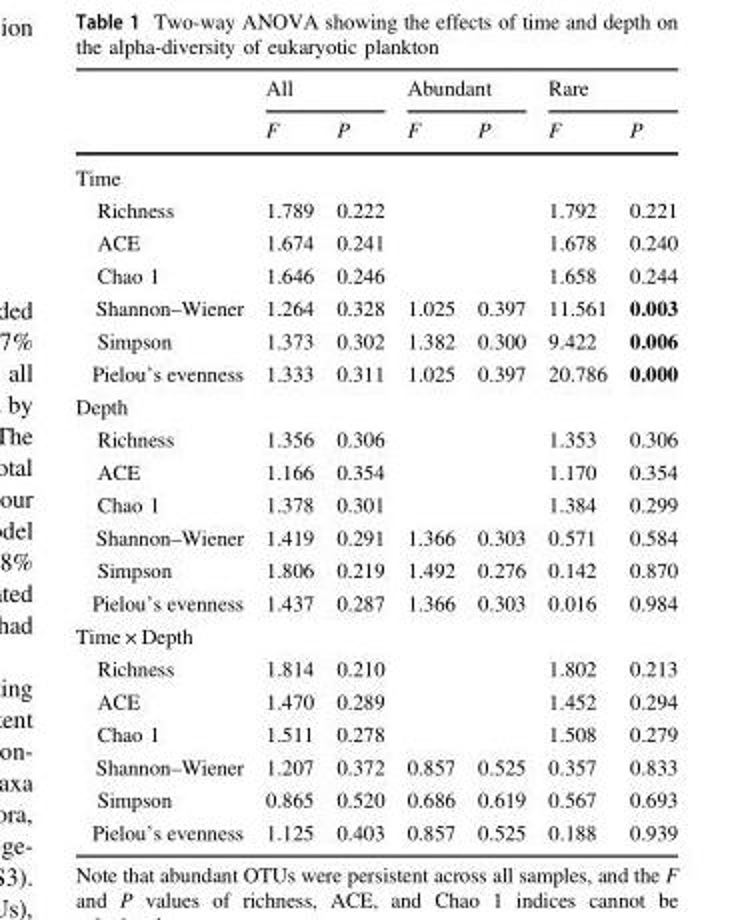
<table><thead><tr><td rowspan="2"></td><td colspan="2">All</td><td colspan="2">Abundant</td><td colspan="2">Rare</td></tr><tr><td>F</td><td>P</td><td>F</td><td>P</td><td>F</td><td>P</td></tr></thead><tbody><tr><td colspan="7">Time</td></tr><tr><td>Richness</td><td>1.789</td><td>0.222</td><td></td><td></td><td>1.792</td><td>0.221</td></tr><tr><td>ACE</td><td>1.674</td><td>0.241</td><td></td><td></td><td>1.678</td><td>0.240</td></tr><tr><td>Chao 1</td><td>1.646</td><td>0.246</td><td></td><td></td><td>1.658</td><td>0.244</td></tr><tr><td>Shannon–Wiener</td><td>1.264</td><td>0.328</td><td>1.025</td><td>0.397</td><td>11.561</td><td>0.003</td></tr><tr><td>Simpson</td><td>1.373</td><td>0.302</td><td>1.382</td><td>0.300</td><td>9.422</td><td>0.006</td></tr><tr><td>Pielou’s evenness</td><td>1.333</td><td>0.311</td><td>1.025</td><td>0.397</td><td>20.786</td><td>0.000</td></tr><tr><td colspan="7">Depth</td></tr><tr><td>Richness</td><td>1.356</td><td>0.306</td><td></td><td></td><td>1.353</td><td>0.306</td></tr><tr><td>ACE</td><td>1.166</td><td>0.354</td><td></td><td></td><td>1.170</td><td>0.354</td></tr><tr><td>Chao 1</td><td>1.378</td><td>0.301</td><td></td><td></td><td>1.384</td><td>0.299</td></tr><tr><td>Shannon–Wiener</td><td>1.419</td><td>0.291</td><td>1.366</td><td>0.303</td><td>0.571</td><td>0.584</td></tr><tr><td>Simpson</td><td>1.806</td><td>0.219</td><td>1.492</td><td>0.276</td><td>0.142</td><td>0.870</td></tr><tr><td>Pielou’s evenness</td><td>1.437</td><td>0.287</td><td>1.366</td><td>0.303</td><td>0.016</td><td>0.984</td></tr><tr><td colspan="7">Time × Depth</td></tr><tr><td>Richness</td><td>1.814</td><td>0.210</td><td></td><td></td><td>1.802</td><td>0.213</td></tr><tr><td>ACE</td><td>1.470</td><td>0.289</td><td></td><td></td><td>1.452</td><td>0.294</td></tr><tr><td>Chao 1</td><td>1.511</td><td>0.278</td><td></td><td></td><td>1.508</td><td>0.279</td></tr><tr><td>Shannon–Wiener</td><td>1.207</td><td>0.372</td><td>0.857</td><td>0.525</td><td>0.357</td><td>0.833</td></tr><tr><td>Simpson</td><td>0.865</td><td>0.520</td><td>0.686</td><td>0.619</td><td>0.567</td><td>0.693</td></tr><tr><td>Pielou’s evenness</td><td>1.125</td><td>0.403</td><td>0.857</td><td>0.525</td><td>0.188</td><td>0.939</td></tr></tbody></table>